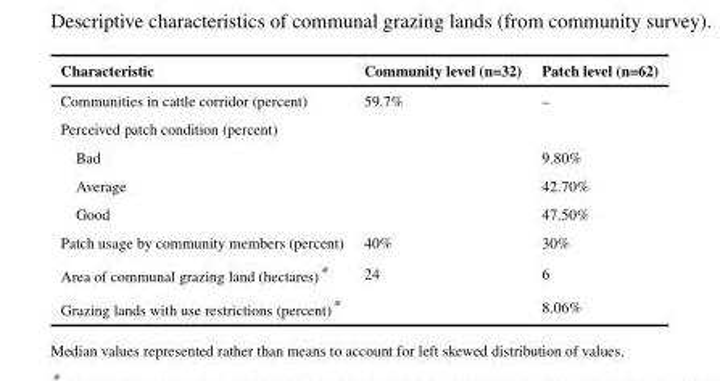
<table><thead><tr><td>Characteristic</td><td>Community level (n=32)</td><td>Patch level (n=62)</td></tr></thead><tbody><tr><td>Communities in cattle corridor (percent)</td><td>59.7%</td><td>–</td></tr><tr><td colspan="3">Perceived patch condition (percent)</td></tr><tr><td>Bad</td><td></td><td>9.80%</td></tr><tr><td>Average</td><td></td><td>42.70%</td></tr><tr><td>Good</td><td></td><td>47.50%</td></tr><tr><td>Patch usage by community members (percent)</td><td>40%</td><td>30%</td></tr><tr><td>Area of communal grazing land (hectares)*</td><td>24</td><td>6</td></tr><tr><td>Grazing lands with use restrictions (percent)*</td><td></td><td>8.06%</td></tr></tbody></table>